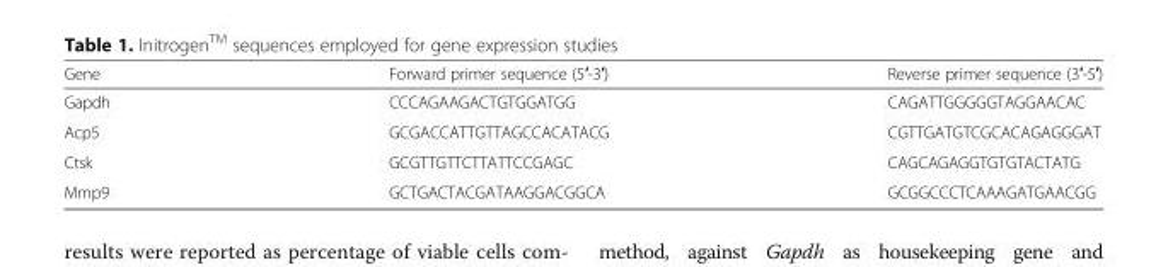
<table><thead><tr><td>Gene</td><td>Forward primer sequence (5′-3′)</td><td>Reverse primer sequence (3′-5′)</td></tr></thead><tbody><tr><td>Gapdh</td><td>CCCAGAAGACTGTGGATGG</td><td>CAGATTGGGGGTAGGAACAC</td></tr><tr><td>Acp5</td><td>GCGACCATTGTTAGCCACATACG</td><td>CGTTGATGTCGCACAGAGGGAT</td></tr><tr><td>Ctsk</td><td>GCGTTGTTCTTATTCCGAGC</td><td>CAGCAGAGGTGTGTACTATG</td></tr><tr><td>Mmp9</td><td>GCTGACTACGATAAGGACGGCA</td><td>GCGGCCCTCAAAGATGAACGG</td></tr></tbody></table>